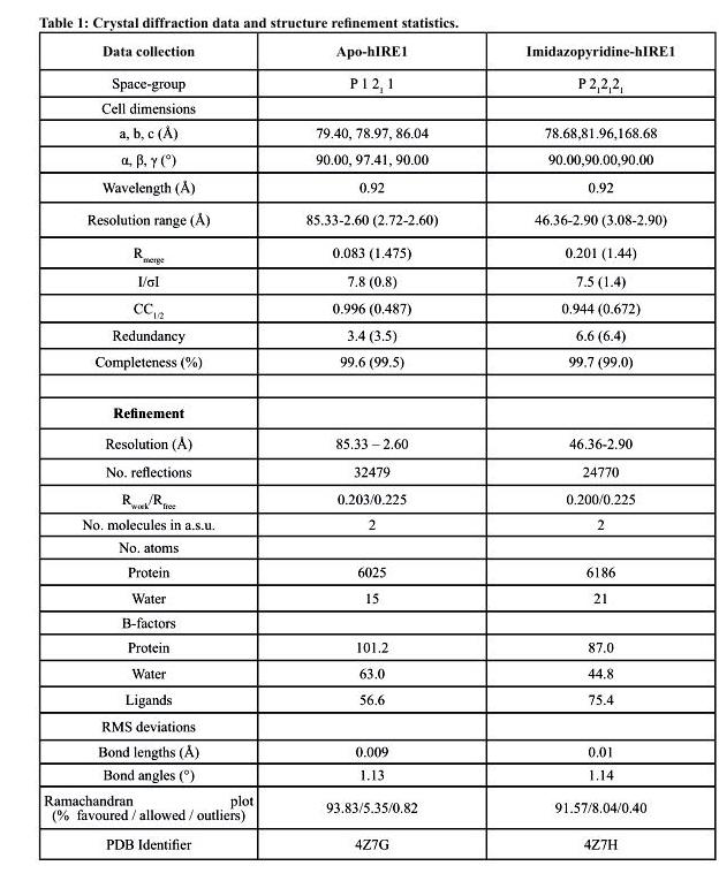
<table><thead><tr><td>data collection</td><td>Apo-hIre1</td><td>Imidazopyridine-hIre1</td></tr></thead><tbody><tr><td>Space-group</td><td>P 1 2<sub>1</sub> 1</td><td>P 2<sub>1</sub>2<sub>1</sub>2<sub>1</sub></td></tr><tr><td colspan="3">Cell dimensions</td></tr><tr><td>a, b, c (Å)</td><td>79.40, 78.97, 86.04</td><td>78.68,81.96,168.68</td></tr><tr><td>α, β, γ (°)</td><td>90.00, 97.41, 90.00</td><td>90.00,90.00,90.00</td></tr><tr><td>Wavelength (Å)</td><td>0.92</td><td>0.92</td></tr><tr><td>Resolution range (Å)</td><td>85.33-2.60 (2.72-2.60)</td><td>46.36-2.90 (3.08-2.90)</td></tr><tr><td>R<sub>merge</sub></td><td>0.083 (1.475)</td><td>0.201 (1.44)</td></tr><tr><td>I/σI</td><td>7.8 (0.8)</td><td>7.5 (1.4)</td></tr><tr><td>CC<sub>1/2</sub></td><td>0.996 (0.487)</td><td>0.944 (0.672)</td></tr><tr><td>Redundancy</td><td>3.4 (3.5)</td><td>6.6 (6.4)</td></tr><tr><td>Completeness (%)</td><td>99.6 (99.5)</td><td>99.7 (99.0)</td></tr><tr><td colspan="3">Refinement</td></tr><tr><td>Resolution (Å)</td><td>85.33 – 2.60</td><td>46.36-2.90</td></tr><tr><td>No. reflections</td><td>32479</td><td>24770</td></tr><tr><td>R<sub>work</sub>/R<sub>free</sub></td><td>0.203/0.225</td><td>0.200/0.225</td></tr><tr><td>No. molecules in a.s.u.</td><td>2</td><td>2</td></tr><tr><td colspan="3">No. atoms</td></tr><tr><td>Protein</td><td>6025</td><td>6186</td></tr><tr><td>Water</td><td>15</td><td>21</td></tr><tr><td colspan="3">B-factors</td></tr><tr><td>Protein</td><td>101.2</td><td>87.0</td></tr><tr><td>Water</td><td>63.0</td><td>44.8</td></tr><tr><td>Ligands</td><td>56.6</td><td>75.4</td></tr><tr><td colspan="3">RMS deviations</td></tr><tr><td>Bond lengths (Å)</td><td>0.009</td><td>0.01</td></tr><tr><td>Bond angles (°)</td><td>1.13</td><td>1.14</td></tr><tr><td>Ramachandran plot (% favoured / allowed / outliers)</td><td>93.83/5.35/0.82</td><td>91.57/8.04/0.40</td></tr><tr><td>PDB Identifier</td><td>4Z7G</td><td>4Z7H</td></tr></tbody></table>